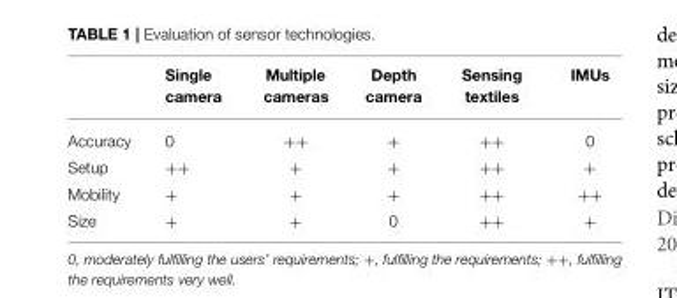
<table><thead><tr><td></td><td>Single camera</td><td>Multiple cameras</td><td>Depth camera</td><td>Sensing textiles</td><td>IMUs</td></tr></thead><tbody><tr><td>Accuracy</td><td>0</td><td>++</td><td>+</td><td>++</td><td>0</td></tr><tr><td>Setup</td><td>++</td><td>+</td><td>+</td><td>++</td><td>+</td></tr><tr><td>Mobility</td><td>+</td><td>+</td><td>+</td><td>++</td><td>++</td></tr><tr><td>Size</td><td>+</td><td>+</td><td>0</td><td>++</td><td>+</td></tr></tbody></table>